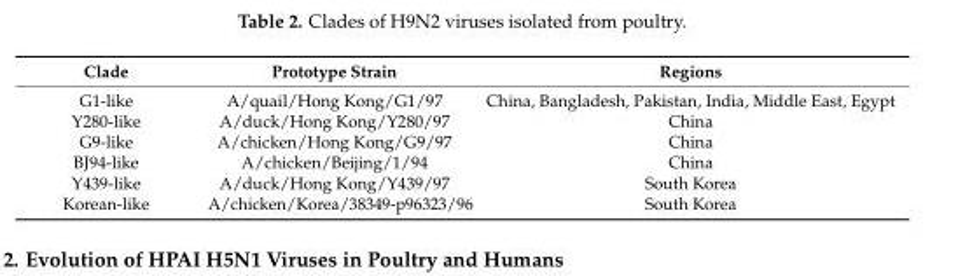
<table><thead><tr><td>Clade</td><td>Prototype Strain</td><td>Regions</td></tr></thead><tbody><tr><td>G1-like</td><td>A/quail/Hong Kong/G1/97</td><td>China, Bangladesh, Pakistan, India, Middle East, Egypt</td></tr><tr><td>Y280-like</td><td>A/duck/Hong Kong/Y280/97</td><td>China</td></tr><tr><td>G9-like</td><td>A/chicken/Hong Kong/G9/97</td><td>China</td></tr><tr><td>BJ94-like</td><td>A/chicken/Beijing/1/94</td><td>China</td></tr><tr><td>Y439-like</td><td>A/duck/Hong Kong/Y439/97</td><td>South Korea</td></tr><tr><td>Korean-like</td><td>A/chicken/Korea/38349-p96323/96</td><td>South Korea</td></tr></tbody></table>